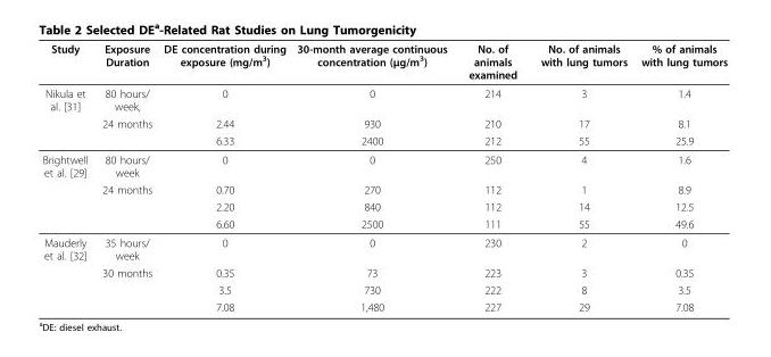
<table><thead><tr><td>Study</td><td>Exposure Duration</td><td>DE concentration during exposure (mg/m<sup>3</sup>)</td><td>30-month average continuous concentration (μg/m<sup>3</sup>)</td><td>No. of animals examined</td><td>No. of animals with lung tumors</td><td>% of animals with lung tumors</td></tr></thead><tbody><tr><td rowspan="3">Nikula et al. [31]</td><td>80 hours/ week,</td><td>0</td><td>0</td><td>214</td><td>3</td><td>1.4</td></tr><tr><td>24 months</td><td>2.44</td><td>930</td><td>210</td><td>17</td><td>8.1</td></tr><tr><td></td><td>6.33</td><td>2400</td><td>212</td><td>55</td><td>25.9</td></tr><tr><td rowspan="4">Brightwell et al. [29]</td><td>80 hours/ week</td><td>0</td><td>0</td><td>250</td><td>4</td><td>1.6</td></tr><tr><td>24 months</td><td>0.70</td><td>270</td><td>112</td><td>1</td><td>8.9</td></tr><tr><td></td><td>2.20</td><td>840</td><td>112</td><td>14</td><td>12.5</td></tr><tr><td></td><td>6.60</td><td>2500</td><td>111</td><td>55</td><td>49.6</td></tr><tr><td rowspan="4">Mauderly et al. [32]</td><td>35 hours/ week</td><td>0</td><td>0</td><td>230</td><td>2</td><td>0</td></tr><tr><td>30 months</td><td>0.35</td><td>73</td><td>223</td><td>3</td><td>0.35</td></tr><tr><td></td><td>3.5</td><td>730</td><td>222</td><td>8</td><td>3.5</td></tr><tr><td></td><td>7.08</td><td>1,480</td><td>227</td><td>29</td><td>7.08</td></tr></tbody></table>